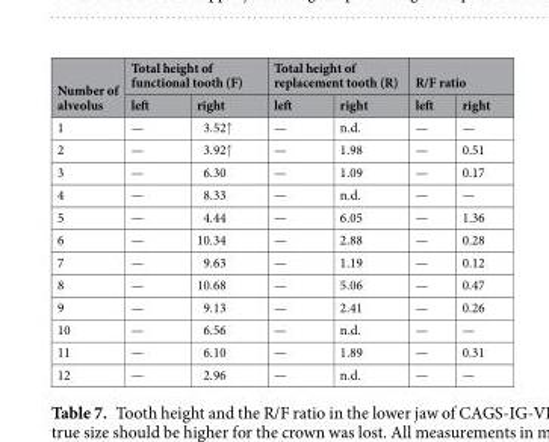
<table><thead><tr><td rowspan="2">Number of alveolus</td><td colspan="2">Total height of functional tooth (F)</td><td colspan="2">Total height of replacement tooth (R)</td><td colspan="2">R/F ratio</td></tr><tr><td>left</td><td>right</td><td>left</td><td>right</td><td>left</td><td>right</td></tr></thead><tbody><tr><td>1</td><td>—</td><td>3.52↑</td><td>—</td><td>n.d.</td><td>—</td><td>—</td></tr><tr><td>2</td><td>—</td><td>3.92↑</td><td>—</td><td>1.98</td><td>—</td><td>0.51</td></tr><tr><td>3</td><td>—</td><td>6.30</td><td>—</td><td>1.09</td><td>—</td><td>0.17</td></tr><tr><td>4</td><td>—</td><td>8.33</td><td>—</td><td>n.d.</td><td>—</td><td>—</td></tr><tr><td>5</td><td>—</td><td>4.44</td><td>—</td><td>6.05</td><td>—</td><td>1.36</td></tr><tr><td>6</td><td>—</td><td>10.34</td><td>—</td><td>2.88</td><td>—</td><td>0.28</td></tr><tr><td>7</td><td>—</td><td>9.63</td><td>—</td><td>1.19</td><td>—</td><td>0.12</td></tr><tr><td>8</td><td>—</td><td>10.68</td><td>—</td><td>5.06</td><td>—</td><td>0.47</td></tr><tr><td>9</td><td>—</td><td>9.13</td><td>—</td><td>2.41</td><td>—</td><td>0.26</td></tr><tr><td>10</td><td>—</td><td>6.56</td><td>—</td><td>n.d.</td><td>—</td><td>—</td></tr><tr><td>11</td><td>—</td><td>6.10</td><td>—</td><td>1.89</td><td>—</td><td>0.31</td></tr><tr><td>12</td><td>—</td><td>2.96</td><td>—</td><td>n.d.</td><td>—</td><td>—</td></tr></tbody></table>